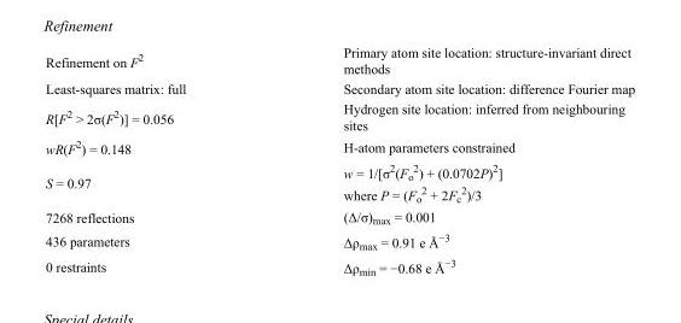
<table><tbody><tr><td>Refinement on F<sup>2</sup></td><td>Primary atom site location: structure-invariant direct methods</td></tr><tr><td>Least-squares matrix: full</td><td>Secondary atom site location: difference Fourier map</td></tr><tr><td>R[F<sup>2</sup> &gt; 2σ(F<sup>2</sup>)] = 0.056</td><td>Hydrogen site location: inferred from neighbouring sites</td></tr><tr><td>wR(F<sup>2</sup>) = 0.148</td><td>H-atom parameters constrained</td></tr><tr><td>S = 0.97</td><td>w = 1/[σ<sup>2</sup>(F<sub>o</sub> <sup>2</sup>) + (0.0702P)<sup>2</sup>] where P = (F<sub>o</sub> <sup>2</sup> + 2F<sub>c</sub> <sup>2</sup>)/3</td></tr><tr><td>7268 reflections</td><td>(Δ/σ)<sub>max</sub> = 0.001</td></tr><tr><td>436 parameters</td><td>Δρ<sub>max</sub> = 0.91 e Å<sup>−3</sup></td></tr><tr><td>0 restraints</td><td>Δρ<sub>min</sub> = −0.68 e Å<sup>−3</sup></td></tr></tbody></table>